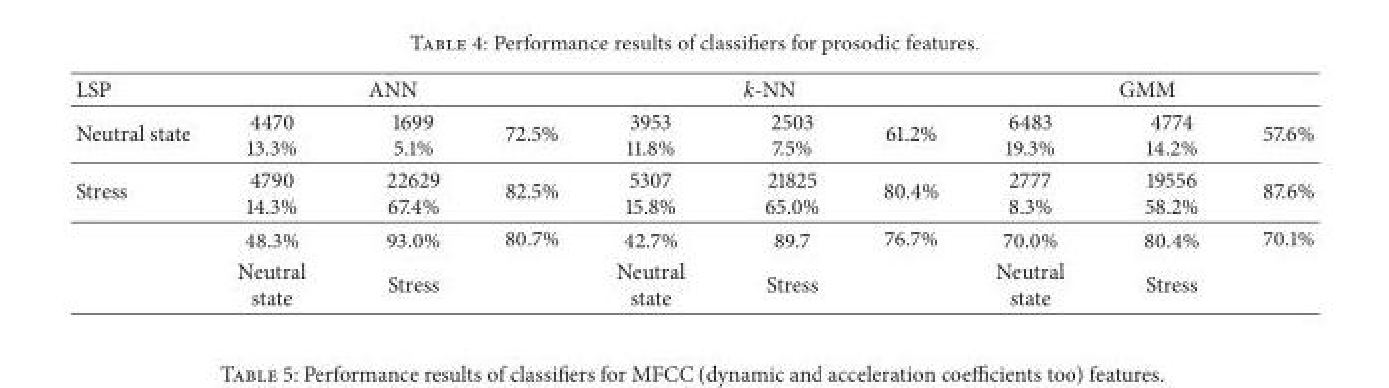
<table><thead><tr><td rowspan="2">LSP Neutral state</td><td colspan="3">ANN</td><td colspan="3">k-NN</td><td colspan="3">GMM</td></tr><tr><td>4470 13.3%</td><td>1699 5.1%</td><td>72.5%</td><td>3953 11.8%</td><td>2503 7.5%</td><td>61.2%</td><td>6483 19.3%</td><td>4774 14.2%</td><td>57.6%</td></tr></thead><tbody><tr><td rowspan="3">Stress</td><td>4790 14.3%</td><td>22629 67.4%</td><td>82.5%</td><td>5307 15.8%</td><td>21825 65.0%</td><td>80.4%</td><td>2777 8.3%</td><td>19556 58.2%</td><td>87.6%</td></tr><tr><td>48.3%</td><td>93.0%</td><td>80.7%</td><td>42.7%</td><td>89.7</td><td>76.7%</td><td>70.0%</td><td>80.4%</td><td>70.1%</td></tr><tr><td>Neutral state</td><td>Stress</td><td></td><td>Neutral state</td><td>Stress</td><td></td><td>Neutral state</td><td>Stress</td><td></td></tr></tbody></table>